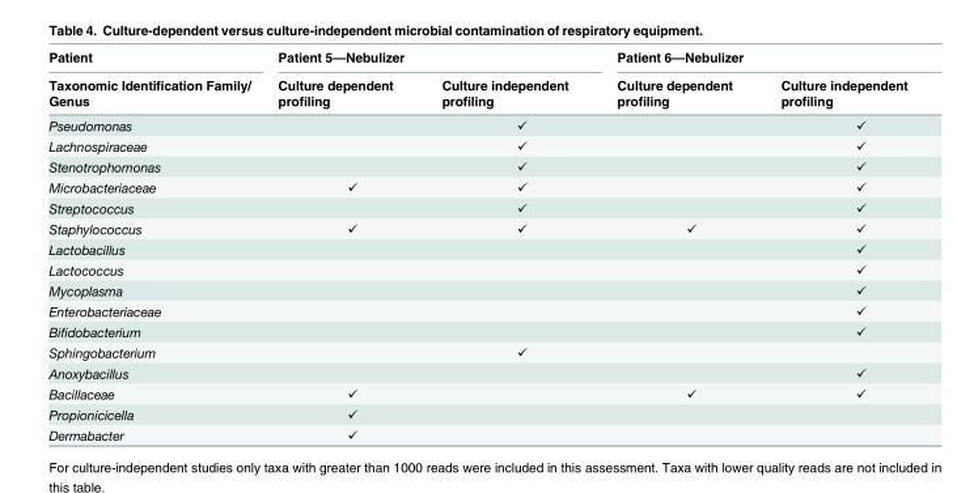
<table><thead><tr><td rowspan="2">Patient Taxonomic Identification Family/ Genus</td><td colspan="2">Patient 5—Nebulizer</td><td colspan="2">Patient 6—Nebulizer</td></tr><tr><td>Culture dependent profiling</td><td>Culture independent profiling</td><td>Culture dependent profiling</td><td>Culture independent profiling</td></tr></thead><tbody><tr><td>Pseudomonas</td><td></td><td>✓</td><td></td><td>✓</td></tr><tr><td>Lachnospiraceae</td><td></td><td>✓</td><td></td><td>✓</td></tr><tr><td>Stenotrophomonas</td><td></td><td>✓</td><td></td><td>✓</td></tr><tr><td>Microbacteriaceae</td><td>✓</td><td>✓</td><td></td><td>✓</td></tr><tr><td>Streptococcus</td><td></td><td>✓</td><td></td><td>✓</td></tr><tr><td>Staphylococcus</td><td>✓</td><td>✓</td><td>✓</td><td>✓</td></tr><tr><td>Lactobacillus</td><td></td><td></td><td></td><td>✓</td></tr><tr><td>Lactococcus</td><td></td><td></td><td></td><td>✓</td></tr><tr><td>Mycoplasma</td><td></td><td></td><td></td><td>✓</td></tr><tr><td>Enterobacteriaceae</td><td></td><td></td><td></td><td>✓</td></tr><tr><td>Bifidobacterium</td><td></td><td></td><td></td><td>✓</td></tr><tr><td>Sphingobacterium</td><td></td><td>✓</td><td></td><td></td></tr><tr><td>Anoxybacillus</td><td></td><td></td><td></td><td>✓</td></tr><tr><td>Bacillaceae</td><td>✓</td><td></td><td>✓</td><td>✓</td></tr><tr><td>Propionicicella</td><td>✓</td><td></td><td></td><td></td></tr><tr><td>Dermabacter</td><td>✓</td><td></td><td></td><td></td></tr></tbody></table>